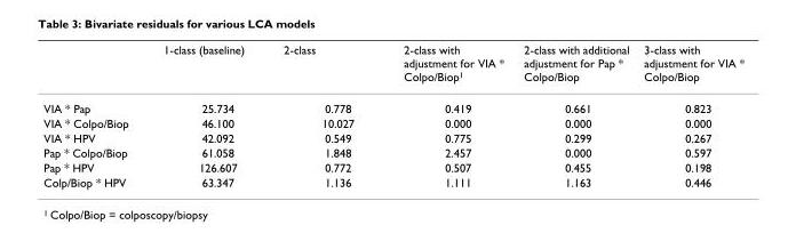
<table><thead><tr><td></td><td>1-class (baseline)</td><td>2-class</td><td>2-class with adjustment for VIA * Colpo/Biop<sup>1</sup></td><td>2-class with additional adjustment for Pap * Colpo/Biop</td><td>3-class with adjustment for VIA * Colpo/Biop</td></tr></thead><tbody><tr><td>VIA * Pap</td><td>25.734</td><td>0.778</td><td>0.419</td><td>0.661</td><td>0.823</td></tr><tr><td>VIA * Colpo/Biop</td><td>46.100</td><td>10.027</td><td>0.000</td><td>0.000</td><td>0.000</td></tr><tr><td>VIA * HPV</td><td>42.092</td><td>0.549</td><td>0.775</td><td>0.299</td><td>0.267</td></tr><tr><td>Pap * Colpo/Biop</td><td>61.058</td><td>1.848</td><td>2.457</td><td>0.000</td><td>0.597</td></tr><tr><td>Pap * HPV</td><td>126.607</td><td>0.772</td><td>0.507</td><td>0.455</td><td>0.198</td></tr><tr><td>Colp/Biop * HPV</td><td>63.347</td><td>1.136</td><td>1.111</td><td>1.163</td><td>0.446</td></tr></tbody></table>